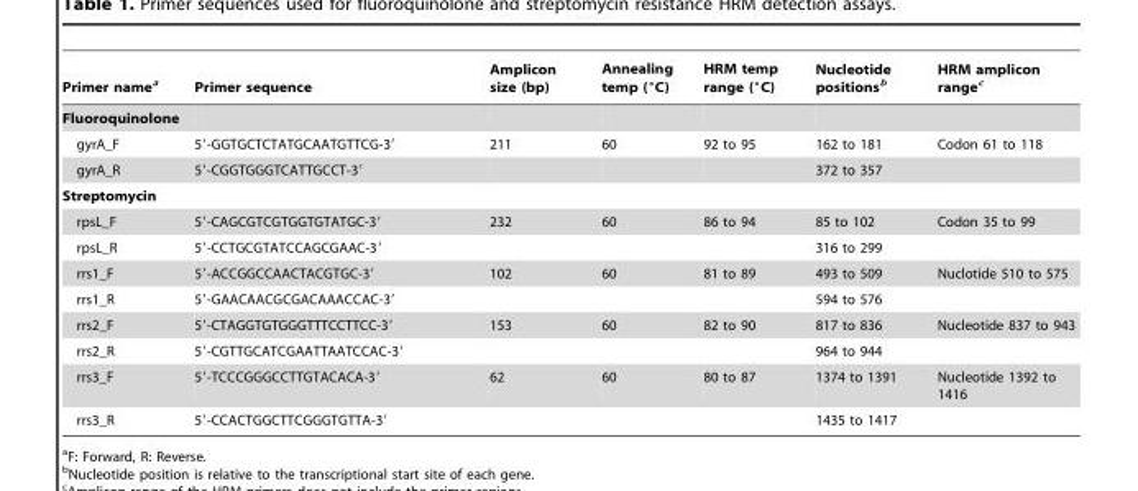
<table><thead><tr><td>Primer name<sup>a</sup></td><td>Primer sequence</td><td>Amplicon size (bp)</td><td>Annealing temp (°C)</td><td>HRM temp range (°C)</td><td>Nucleotide positions<sup>b</sup></td><td>HRM amplicon range<sup>c</sup></td></tr></thead><tbody><tr><td colspan="7">Fluoroquinolone</td></tr><tr><td>gyrA_F</td><td>5′-GGTGCTCTATGCAATGTTCG-3′</td><td>211</td><td>60</td><td>92 to 95</td><td>162 to 181</td><td>Codon 61 to 118</td></tr><tr><td>gyrA_R</td><td>5′-CGGTGGGTCATTGCCT-3′</td><td></td><td></td><td></td><td>372 to 357</td><td></td></tr><tr><td colspan="7">Streptomycin</td></tr><tr><td>rpsL_F</td><td>5′-CAGCGTCGTGGTGTATGC-3′</td><td>232</td><td>60</td><td>86 to 94</td><td>85 to 102</td><td>Codon 35 to 99</td></tr><tr><td>rpsL_R</td><td>5′-CCTGCGTATCCAGCGAAC-3′</td><td></td><td></td><td></td><td>316 to 299</td><td></td></tr><tr><td>rrs1_F</td><td>5′-ACCGGCCAACTACGTGC-3′</td><td>102</td><td>60</td><td>81 to 89</td><td>493 to 509</td><td>Nuclotide 510 to 575</td></tr><tr><td>rrs1_R</td><td>5′-GAACAACGCGACAAACCAC-3′</td><td></td><td></td><td></td><td>594 to 576</td><td></td></tr><tr><td>rrs2_F</td><td>5′-CTAGGTGTGGGTTTCCTTCC-3′</td><td>153</td><td>60</td><td>82 to 90</td><td>817 to 836</td><td>Nucleotide 837 to 943</td></tr><tr><td>rrs2_R</td><td>5′-CGTTGCATCGAATTAATCCAC-3′</td><td></td><td></td><td></td><td>964 to 944</td><td></td></tr><tr><td>rrs3_F</td><td>5′-TCCCGGGCCTTGTACACA-3′</td><td>62</td><td>60</td><td>80 to 87</td><td>1374 to 1391</td><td>Nucleotide 1392 to 1416</td></tr><tr><td>rrs3_R</td><td>5′-CCACTGGCTTCGGGTGTTA-3′</td><td></td><td></td><td></td><td>1435 to 1417</td><td></td></tr></tbody></table>